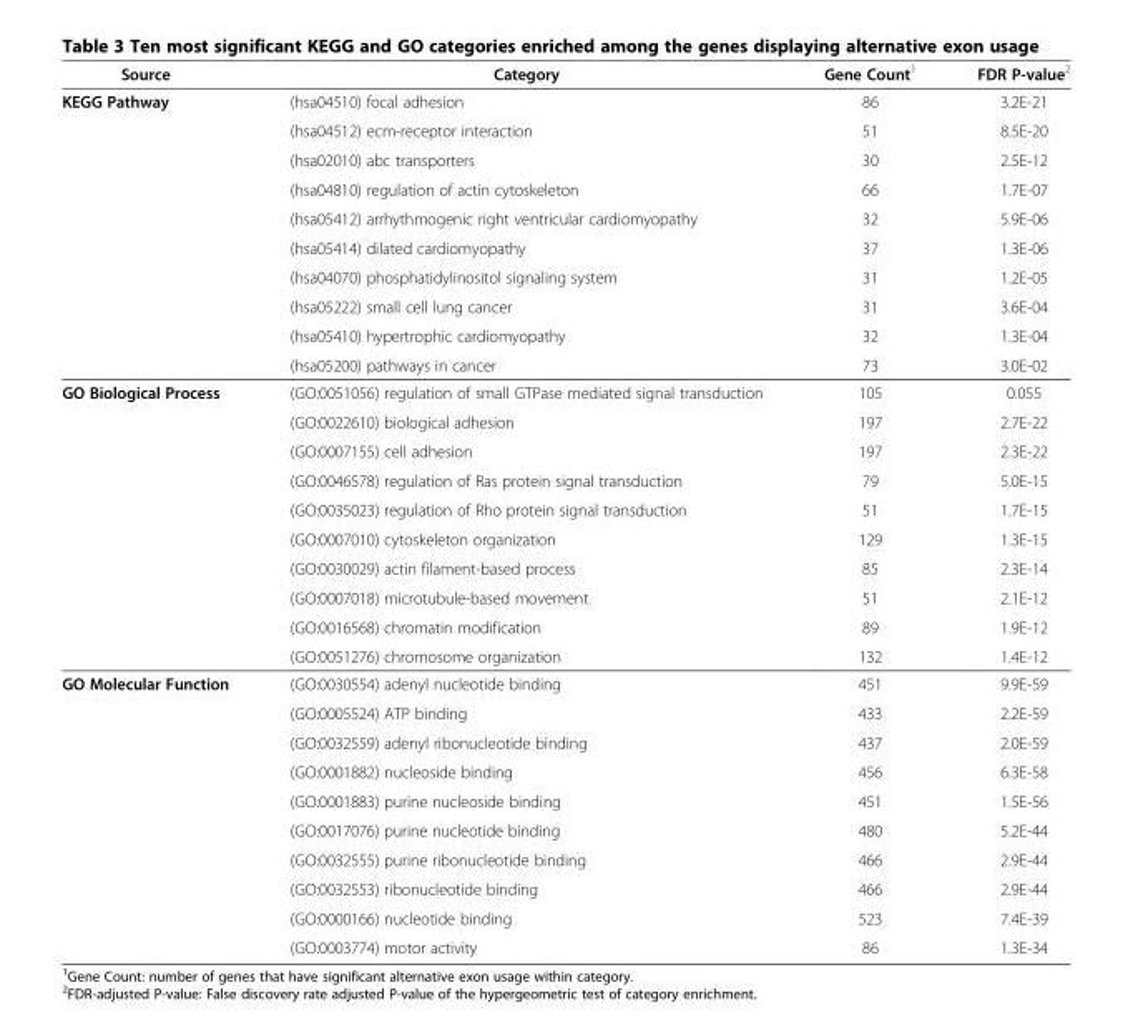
<table><thead><tr><td>Source</td><td>Category</td><td>Gene Count<sup>1</sup></td><td>FDR P-value<sup>2</sup></td></tr></thead><tbody><tr><td rowspan="10">KEGG Pathway</td><td>(hsa04510) focal adhesion</td><td>86</td><td>3.2E-21</td></tr><tr><td>(hsa04512) ecm-receptor interaction</td><td>51</td><td>8.5E-20</td></tr><tr><td>(hsa02010) abc transporters</td><td>30</td><td>2.5E-12</td></tr><tr><td>(hsa04810) regulation of actin cytoskeleton</td><td>66</td><td>1.7E-07</td></tr><tr><td>(hsa05412) arrhythmogenic right ventricular cardiomyopathy</td><td>32</td><td>5.9E-06</td></tr><tr><td>(hsa05414) dilated cardiomyopathy</td><td>37</td><td>1.3E-06</td></tr><tr><td>(hsa04070) phosphatidylinositol signaling system</td><td>31</td><td>1.2E-05</td></tr><tr><td>(hsa05222) small cell lung cancer</td><td>31</td><td>3.6E-04</td></tr><tr><td>(hsa05410) hypertrophic cardiomyopathy</td><td>32</td><td>1.3E-04</td></tr><tr><td>(hsa05200) pathways in cancer</td><td>73</td><td>3.0E-02</td></tr><tr><td rowspan="10">GO Biological Process</td><td>(GO:0051056) regulation of small GTPase mediated signal transduction</td><td>105</td><td>0.055</td></tr><tr><td>(GO:0022610) biological adhesion</td><td>197</td><td>2.7E-22</td></tr><tr><td>(GO:0007155) cell adhesion</td><td>197</td><td>2.3E-22</td></tr><tr><td>(GO:0046578) regulation of Ras protein signal transduction</td><td>79</td><td>5.0E-15</td></tr><tr><td>(GO:0035023) regulation of Rho protein signal transduction</td><td>51</td><td>1.7E-15</td></tr><tr><td>(GO:0007010) cytoskeleton organization</td><td>129</td><td>1.3E-15</td></tr><tr><td>(GO:0030029) actin filament-based process</td><td>85</td><td>2.3E-14</td></tr><tr><td>(GO:0007018) microtubule-based movement</td><td>51</td><td>2.1E-12</td></tr><tr><td>(GO:0016568) chromatin modification</td><td>89</td><td>1.9E-12</td></tr><tr><td>(GO:0051276) chromosome organization</td><td>132</td><td>1.4E-12</td></tr><tr><td rowspan="10">GO Molecular Function</td><td>(GO:0030554) adenyl nucleotide binding</td><td>451</td><td>9.9E-59</td></tr><tr><td>(GO:0005524) ATP binding</td><td>433</td><td>2.2E-59</td></tr><tr><td>(GO:0032559) adenyl ribonucleotide binding</td><td>437</td><td>2.0E-59</td></tr><tr><td>(GO:0001882) nucleoside binding</td><td>456</td><td>6.3E-58</td></tr><tr><td>(GO:0001883) purine nucleoside binding</td><td>451</td><td>1.5E-56</td></tr><tr><td>(GO:0017076) purine nucleotide binding</td><td>480</td><td>5.2E-44</td></tr><tr><td>(GO:0032555) purine ribonucleotide binding</td><td>466</td><td>2.9E-44</td></tr><tr><td>(GO:0032553) ribonucleotide binding</td><td>466</td><td>2.9E-44</td></tr><tr><td>(GO:0000166) nucleotide binding</td><td>523</td><td>7.4E-39</td></tr><tr><td>(GO:0003774) motor activity</td><td>86</td><td>1.3E-34</td></tr></tbody></table>